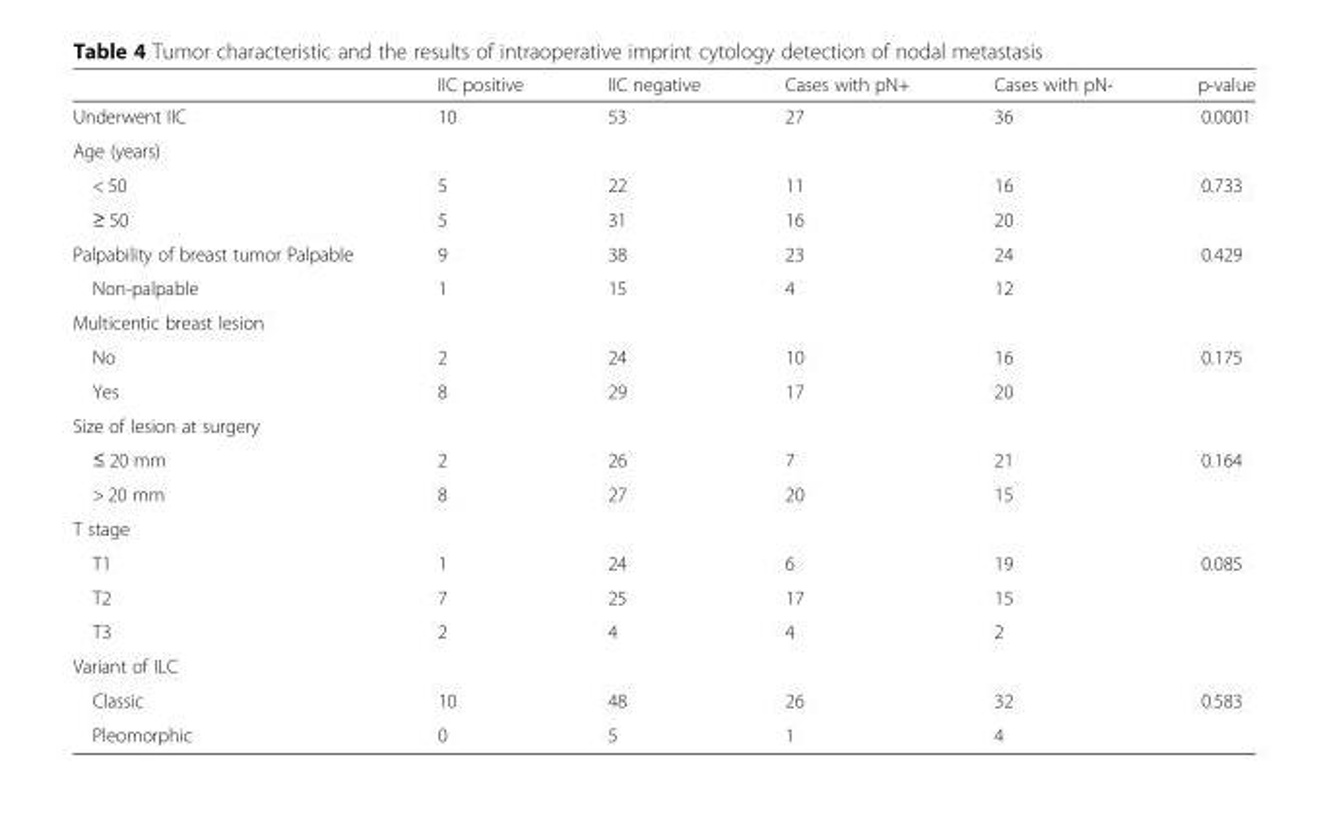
<table><thead><tr><td></td><td>IIC positive</td><td>IIC negative</td><td>Cases with pN+</td><td>Cases with pN-</td><td>p-value</td></tr></thead><tbody><tr><td>Underwent IIC</td><td>10</td><td>53</td><td>27</td><td>36</td><td>0.0001</td></tr><tr><td colspan="6">Age (years)</td></tr><tr><td>&lt; 50</td><td>5</td><td>22</td><td>11</td><td>16</td><td>0.733</td></tr><tr><td>≥ 50</td><td>5</td><td>31</td><td>16</td><td>20</td><td></td></tr><tr><td>Palpability of breast tumor Palpable</td><td>9</td><td>38</td><td>23</td><td>24</td><td>0.429</td></tr><tr><td>Non-palpable</td><td>1</td><td>15</td><td>4</td><td>12</td><td></td></tr><tr><td colspan="6">Multicentic breast lesion</td></tr><tr><td>No</td><td>2</td><td>24</td><td>10</td><td>16</td><td>0.175</td></tr><tr><td>Yes</td><td>8</td><td>29</td><td>17</td><td>20</td><td></td></tr><tr><td colspan="6">Size of lesion at surgery</td></tr><tr><td>≤ 20 mm</td><td>2</td><td>26</td><td>7</td><td>21</td><td>0.164</td></tr><tr><td>&gt; 20 mm</td><td>8</td><td>27</td><td>20</td><td>15</td><td></td></tr><tr><td colspan="6">T stage</td></tr><tr><td>T1</td><td>1</td><td>24</td><td>6</td><td>19</td><td>0.085</td></tr><tr><td>T2</td><td>7</td><td>25</td><td>17</td><td>15</td><td></td></tr><tr><td>T3</td><td>2</td><td>4</td><td>4</td><td>2</td><td></td></tr><tr><td colspan="6">Variant of ILC</td></tr><tr><td>Classic</td><td>10</td><td>48</td><td>26</td><td>32</td><td>0.583</td></tr><tr><td>Pleomorphic</td><td>0</td><td>5</td><td>1</td><td>4</td><td></td></tr></tbody></table>